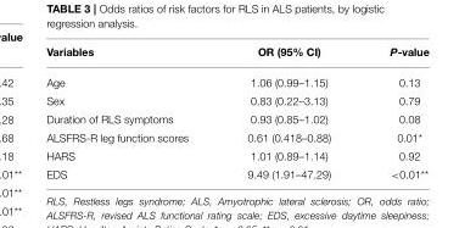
<table><thead><tr><td>Variables</td><td>OR (95% CI)</td><td>P-value</td></tr></thead><tbody><tr><td>Age</td><td>1.06 (0.99–1.15)</td><td>0.13</td></tr><tr><td>Sex</td><td>0.83 (0.22–3.13)</td><td>0.79</td></tr><tr><td>Duration of RLS symptoms</td><td>0.93 (0.85–1.02)</td><td>0.08</td></tr><tr><td>ALSFRS-R leg function scores</td><td>0.61 (0.418–0.88)</td><td>0.01*</td></tr><tr><td>HARS</td><td>1.01 (0.89–1.14)</td><td>0.92</td></tr><tr><td>EDS</td><td>9.49 (1.91–47.29)</td><td>&lt;0.01**</td></tr></tbody></table>